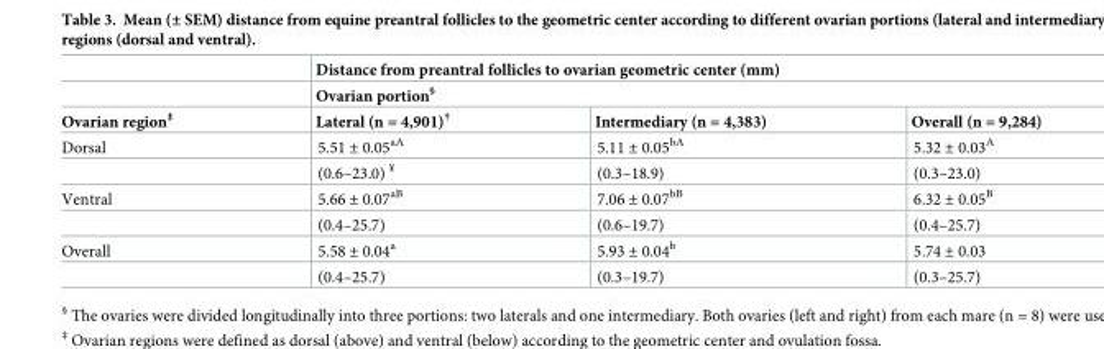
<table><thead><tr><td rowspan="3">Ovarian region<sup>‡</sup></td><td rowspan="2" colspan="3">Distance from preantral follicles to ovarian geometric center (mm) Ovarian portion<sup>§</sup></td></tr><tr></tr><tr><td>Lateral (n = 4,901)<sup>†</sup></td><td>Intermediary (n = 4,383)</td><td>Overall (n = 9,284)</td></tr></thead><tbody><tr><td rowspan="2">Dorsal</td><td>5.51 ± 0.05<sup>aA</sup></td><td>5.11 ± 0.05<sup>bA</sup></td><td>5.32 ± 0.03<sup>A</sup></td></tr><tr><td>(0.6–23.0) <sup>¥</sup></td><td>(0.3–18.9)</td><td>(0.3–23.0)</td></tr><tr><td rowspan="2">Ventral</td><td>5.66 ± 0.07<sup>aB</sup></td><td>7.06 ± 0.07<sup>bB</sup></td><td>6.32 ± 0.05<sup>B</sup></td></tr><tr><td>(0.4–25.7)</td><td>(0.6–19.7)</td><td>(0.4–25.7)</td></tr><tr><td rowspan="2">Overall</td><td>5.58 ± 0.04<sup>a</sup></td><td>5.93 ± 0.04<sup>b</sup></td><td>5.74 ± 0.03</td></tr><tr><td>(0.4–25.7)</td><td>(0.3–19.7)</td><td>(0.3–25.7)</td></tr></tbody></table>